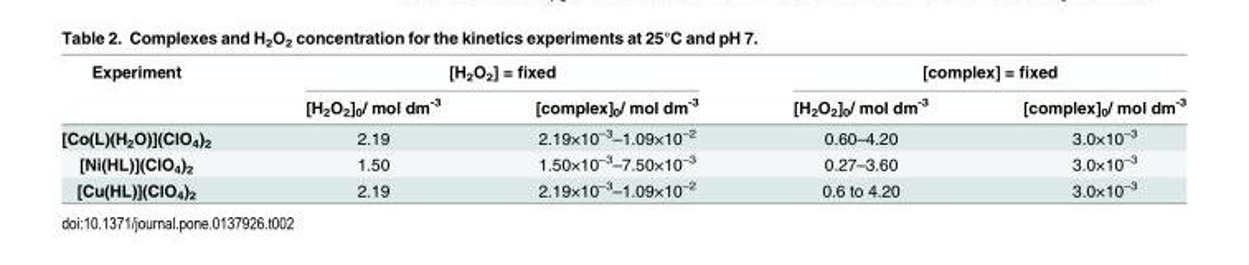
<table><thead><tr><td rowspan="2">Experiment</td><td colspan="2">[H<sub>2</sub>O<sub>2</sub>] = fixed</td><td colspan="2">[complex] = fixed</td></tr><tr><td>[H<sub>2</sub>O<sub>2</sub>]<sub>0</sub>/ mol dm<sup>-3</sup></td><td>[complex]<sub>0</sub>/ mol dm<sup>-3</sup></td><td>[H<sub>2</sub>O<sub>2</sub>]<sub>0</sub>/ mol dm<sup>-3</sup></td><td>[complex]<sub>0</sub>/ mol dm<sup>-3</sup></td></tr></thead><tbody><tr><td>[Co(L)(H<sub>2</sub>O)](ClO<sub>4</sub>)<sub>2</sub></td><td>2.19</td><td>2.19×10<sup>−3</sup>–1.09×10<sup>−2</sup></td><td>0.60–4.20</td><td>3.0×10<sup>−3</sup></td></tr><tr><td>[Ni(HL)](ClO<sub>4</sub>)<sub>2</sub></td><td>1.50</td><td>1.50×10<sup>−3</sup>–7.50×10<sup>−3</sup></td><td>0.27–3.60</td><td>3.0×10<sup>−3</sup></td></tr><tr><td>[Cu(HL)](ClO<sub>4</sub>)<sub>2</sub></td><td>2.19</td><td>2.19×10<sup>−3</sup>–1.09×10<sup>−2</sup></td><td>0.6 to 4.20</td><td>3.0×10<sup>−3</sup></td></tr></tbody></table>